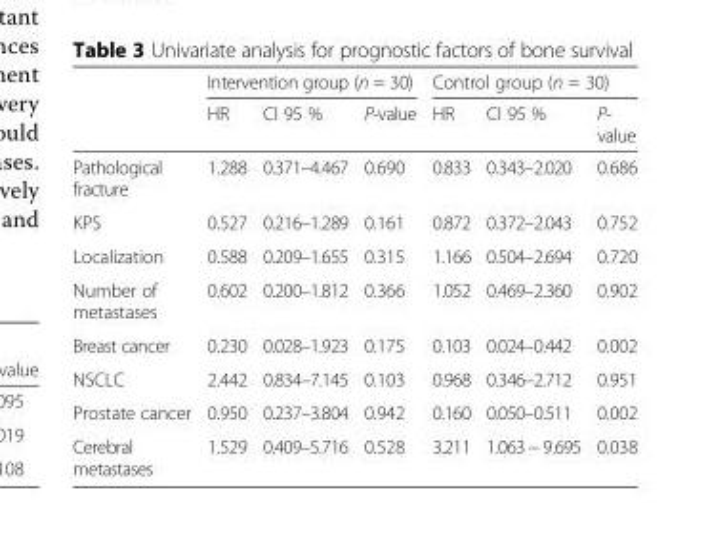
<table><thead><tr><td rowspan="2"></td><td colspan="3">Intervention group (n = 30)</td><td colspan="3">Control group (n = 30)</td></tr><tr><td>HR</td><td>CI 95 %</td><td>P-value</td><td>HR</td><td>CI 95 %</td><td>P- value</td></tr></thead><tbody><tr><td>Pathological fracture</td><td>1.288</td><td>0.371–4.467</td><td>0.690</td><td>0.833</td><td>0.343–2.020</td><td>0.686</td></tr><tr><td>KPS</td><td>0.527</td><td>0.216–1.289</td><td>0.161</td><td>0.872</td><td>0.372–2.043</td><td>0.752</td></tr><tr><td>Localization</td><td>0.588</td><td>0.209–1.655</td><td>0.315</td><td>1.166</td><td>0.504–2.694</td><td>0.720</td></tr><tr><td>Number of metastases</td><td>0.602</td><td>0.200–1.812</td><td>0.366</td><td>1.052</td><td>0.469–2.360</td><td>0.902</td></tr><tr><td>Breast cancer</td><td>0.230</td><td>0.028–1.923</td><td>0.175</td><td>0.103</td><td>0.024–0.442</td><td>0.002</td></tr><tr><td>NSCLC</td><td>2.442</td><td>0.834–7.145</td><td>0.103</td><td>0.968</td><td>0.346–2.712</td><td>0.951</td></tr><tr><td>Prostate cancer</td><td>0.950</td><td>0.237–3.804</td><td>0.942</td><td>0.160</td><td>0.050–0.511</td><td>0.002</td></tr><tr><td>Cerebral metastases</td><td>1.529</td><td>0.409–5.716</td><td>0.528</td><td>3.211</td><td>1.063 − 9.695</td><td>0.038</td></tr></tbody></table>